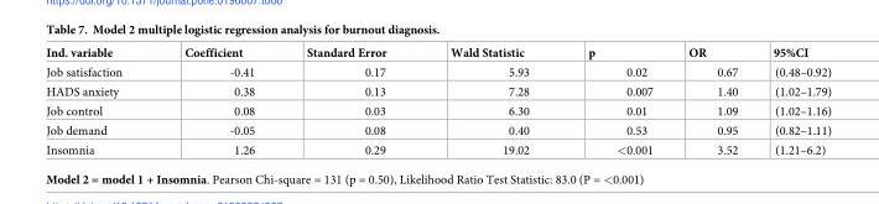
<table><thead><tr><td>Ind. variable</td><td>Coefficient</td><td>Standard Error</td><td>Wald Statistic</td><td>p</td><td>OR</td><td>95%CI</td></tr></thead><tbody><tr><td>Job satisfaction</td><td>-0.41</td><td>0.17</td><td>5.93</td><td>0.02</td><td>0.67</td><td>(0.48–0.92)</td></tr><tr><td>HADS anxiety</td><td>0.38</td><td>0.13</td><td>7.28</td><td>0.007</td><td>1.40</td><td>(1.02–1.79)</td></tr><tr><td>Job control</td><td>0.08</td><td>0.03</td><td>6.30</td><td>0.01</td><td>1.09</td><td>(1.02–1.16)</td></tr><tr><td>Job demand</td><td>-0.05</td><td>0.08</td><td>0.40</td><td>0.53</td><td>0.95</td><td>(0.82–1.11)</td></tr><tr><td>Insomnia</td><td>1.26</td><td>0.29</td><td>19.02</td><td>&lt;0.001</td><td>3.52</td><td>(1.21–6.2)</td></tr></tbody></table>